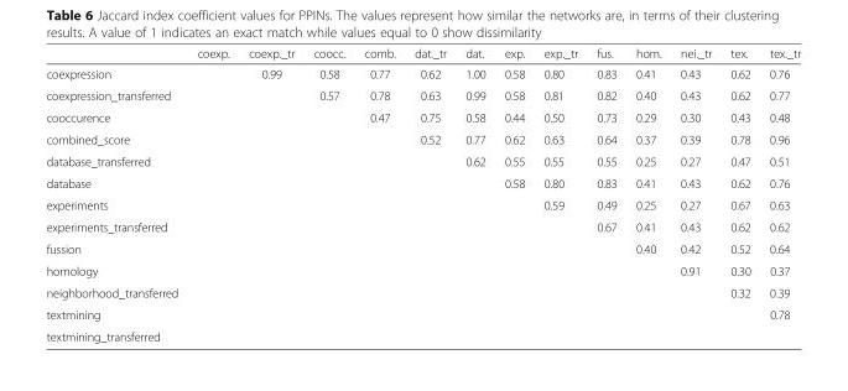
<table><thead><tr><td></td><td>coexp.</td><td>coexp._tr</td><td>coocc.</td><td>comb.</td><td>dat._tr</td><td>dat.</td><td>exp.</td><td>exp._tr</td><td>fus.</td><td>hom.</td><td>nei._tr</td><td>tex.</td><td>tex._tr</td></tr></thead><tbody><tr><td>coexpression</td><td rowspan="13"></td><td>0.99</td><td>0.58</td><td>0.77</td><td>0.62</td><td>1.00</td><td>0.58</td><td>0.80</td><td>0.83</td><td>0.41</td><td>0.43</td><td>0.62</td><td>0.76</td></tr><tr><td>coexpression_transferred</td><td rowspan="12"></td><td>0.57</td><td>0.78</td><td>0.63</td><td>0.99</td><td>0.58</td><td>0.81</td><td>0.82</td><td>0.40</td><td>0.43</td><td>0.62</td><td>0.77</td></tr><tr><td>cooccurence</td><td rowspan="11"></td><td>0.47</td><td>0.75</td><td>0.58</td><td>0.44</td><td>0.50</td><td>0.73</td><td>0.29</td><td>0.30</td><td>0.43</td><td>0.48</td></tr><tr><td>combined_score</td><td rowspan="10"></td><td>0.52</td><td>0.77</td><td>0.62</td><td>0.63</td><td>0.64</td><td>0.37</td><td>0.39</td><td>0.78</td><td>0.96</td></tr><tr><td>database_transferred</td><td rowspan="9"></td><td>0.62</td><td>0.55</td><td>0.55</td><td>0.55</td><td>0.25</td><td>0.27</td><td>0.47</td><td>0.51</td></tr><tr><td>database</td><td rowspan="8"></td><td>0.58</td><td>0.80</td><td>0.83</td><td>0.41</td><td>0.43</td><td>0.62</td><td>0.76</td></tr><tr><td>experiments</td><td rowspan="7"></td><td>0.59</td><td>0.49</td><td>0.25</td><td>0.27</td><td>0.67</td><td>0.63</td></tr><tr><td>experiments_transferred</td><td rowspan="6"></td><td>0.67</td><td>0.41</td><td>0.43</td><td>0.62</td><td>0.62</td></tr><tr><td>fussion</td><td rowspan="5"></td><td>0.40</td><td>0.42</td><td>0.52</td><td>0.64</td></tr><tr><td>homology</td><td rowspan="4"></td><td>0.91</td><td>0.30</td><td>0.37</td></tr><tr><td>neighborhood_transferred</td><td rowspan="3"></td><td>0.32</td><td>0.39</td></tr><tr><td>textmining</td><td rowspan="2"></td><td>0.78</td></tr><tr><td>textmining_transferred</td><td></td></tr></tbody></table>